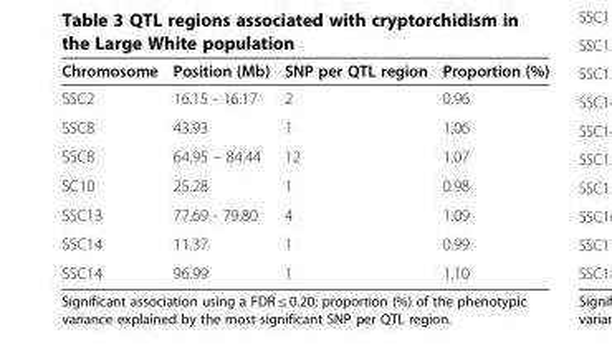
<table><thead><tr><td>Chromosome</td><td>Position (Mb)</td><td>SNP per QTL region</td><td>Proportion (%)</td></tr></thead><tbody><tr><td>SSC2</td><td>16.15 - 16.17</td><td>2</td><td>0.96</td></tr><tr><td>SSC8</td><td>43.93</td><td>1</td><td>1.06</td></tr><tr><td>SSC8</td><td>64.95 – 84.44</td><td>12</td><td>1.07</td></tr><tr><td>SC10</td><td>25.28</td><td>1</td><td>0.98</td></tr><tr><td>SSC13</td><td>77.69 - 79.80</td><td>4</td><td>1.09</td></tr><tr><td>SSC14</td><td>11.37</td><td>1</td><td>0.99</td></tr><tr><td>SSC14</td><td>96.99</td><td>1</td><td>1.10</td></tr></tbody></table>